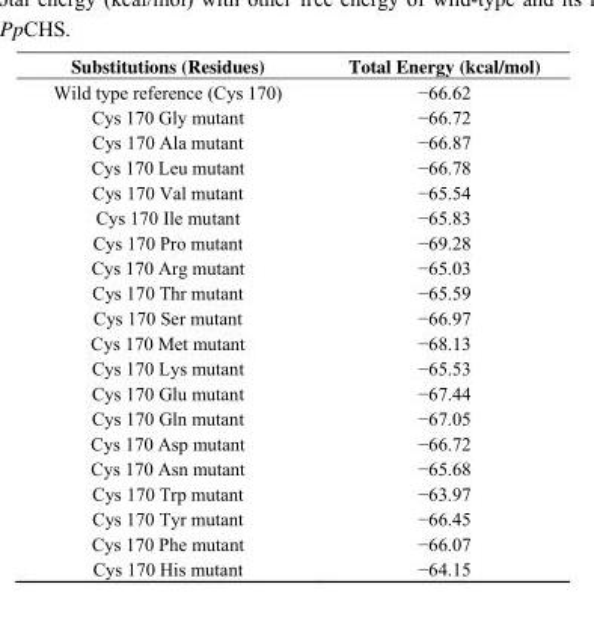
<table><thead><tr><td>Substitutions (Residues)</td><td>Total Energy (kcal/mol)</td></tr></thead><tbody><tr><td>Wild type reference (Cys 170)</td><td>−66.62</td></tr><tr><td>Cys 170 Gly mutant</td><td>−66.72</td></tr><tr><td>Cys 170 Ala mutant</td><td>−66.87</td></tr><tr><td>Cys 170 Leu mutant</td><td>−66.78</td></tr><tr><td>Cys 170 Val mutant</td><td>−65.54</td></tr><tr><td>Cys 170 Ile mutant</td><td>−65.83</td></tr><tr><td>Cys 170 Pro mutant</td><td>−69.28</td></tr><tr><td>Cys 170 Arg mutant</td><td>−65.03</td></tr><tr><td>Cys 170 Thr mutant</td><td>−65.59</td></tr><tr><td>Cys 170 Ser mutant</td><td>−66.97</td></tr><tr><td>Cys 170 Met mutant</td><td>−68.13</td></tr><tr><td>Cys 170 Lys mutant</td><td>−65.53</td></tr><tr><td>Cys 170 Glu mutant</td><td>−67.44</td></tr><tr><td>Cys 170 Gln mutant</td><td>−67.05</td></tr><tr><td>Cys 170 Asp mutant</td><td>−66.72</td></tr><tr><td>Cys 170 Asn mutant</td><td>−65.68</td></tr><tr><td>Cys 170 Trp mutant</td><td>−63.97</td></tr><tr><td>Cys 170 Tyr mutant</td><td>−66.45</td></tr><tr><td>Cys 170 Phe mutant</td><td>−66.07</td></tr><tr><td>Cys 170 His mutant</td><td>−64.15</td></tr></tbody></table>